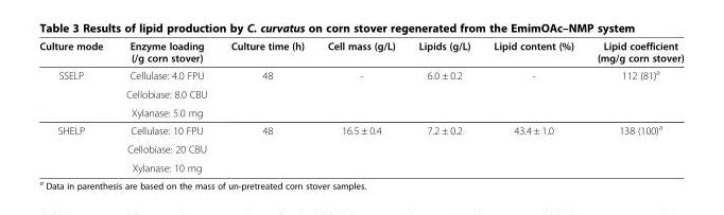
<table><thead><tr><td>Culture mode</td><td>Enzyme loading (/g corn stover)</td><td>Culture time (h)</td><td>Cell mass (g/L)</td><td>Lipids (g/L)</td><td>Lipid content (%)</td><td>Lipid coefficient (mg/g corn stover)</td></tr></thead><tbody><tr><td rowspan="3">SSELP</td><td>Cellulase: 4.0 FPU</td><td rowspan="2">48</td><td rowspan="2">-</td><td rowspan="2">6.0 ± 0.2</td><td rowspan="2">-</td><td rowspan="2">112 (81)<sup>a</sup></td></tr><tr><td>Cellobiase: 8.0 CBU</td></tr><tr><td>Xylanase: 5.0 mg</td><td></td><td></td><td></td><td></td><td></td></tr><tr><td rowspan="3">SHELP</td><td>Cellulase: 10 FPU</td><td rowspan="2">48</td><td rowspan="2">16.5 ± 0.4</td><td rowspan="2">7.2 ± 0.2</td><td rowspan="2">43.4 ± 1.0</td><td rowspan="2">138 (100)<sup>a</sup></td></tr><tr><td>Cellobiase: 20 CBU</td></tr><tr><td>Xylanase: 10 mg</td><td></td><td></td><td></td><td></td><td></td></tr></tbody></table>